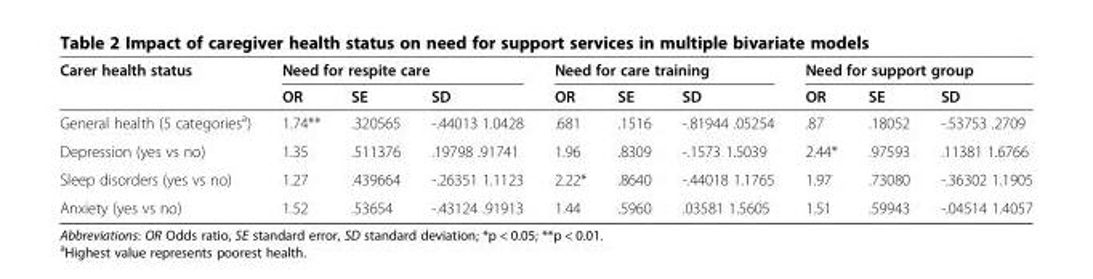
<table><thead><tr><td rowspan="2">Carer health status</td><td colspan="3">Need for respite care</td><td colspan="3">Need for care training</td><td colspan="3">Need for support group</td></tr><tr><td>OR</td><td>SE</td><td>SD</td><td>OR</td><td>SE</td><td>SD</td><td>OR</td><td>SE</td><td>SD</td></tr></thead><tbody><tr><td>General health (5 categories<sup>a</sup>)</td><td>1.74**</td><td>.320565</td><td>-.44013 1.0428</td><td>.681</td><td>.1516</td><td>-.81944 .05254</td><td>.87</td><td>.18052</td><td>-.53753 .2709</td></tr><tr><td>Depression (yes vs no)</td><td>1.35</td><td>.511376</td><td>.19798 .91741</td><td>1.96</td><td>.8309</td><td>-.1573 1.5039</td><td>2.44*</td><td>.97593</td><td>.11381 1.6766</td></tr><tr><td>Sleep disorders (yes vs no)</td><td>1.27</td><td>.439664</td><td>-.26351 1.1123</td><td>2.22*</td><td>.8640</td><td>-.44018 1.1765</td><td>1.97</td><td>.73080</td><td>-.36302 1.1905</td></tr><tr><td>Anxiety (yes vs no)</td><td>1.52</td><td>.53654</td><td>-.43124 .91913</td><td>1.44</td><td>.5960</td><td>.03581 1.5605</td><td>1.51</td><td>.59943</td><td>-.04514 1.4057</td></tr></tbody></table>